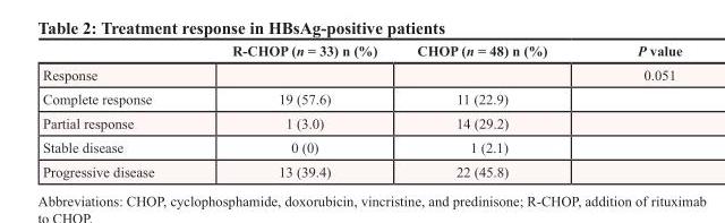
<table><thead><tr><td></td><td>R-CHOP (n = 33) n (%)</td><td>CHOP (n = 48) n (%)</td><td>P value</td></tr></thead><tbody><tr><td>Response</td><td></td><td></td><td>0.051</td></tr><tr><td>Complete response</td><td>19 (57.6)</td><td>11 (22.9)</td><td></td></tr><tr><td>Partial response</td><td>1 (3.0)</td><td>14 (29.2)</td><td></td></tr><tr><td>Stable disease</td><td>0 (0)</td><td>1 (2.1)</td><td></td></tr><tr><td>Progressive disease</td><td>13 (39.4)</td><td>22 (45.8)</td><td></td></tr></tbody></table>